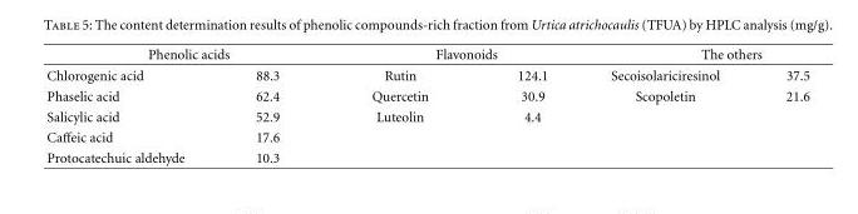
<table><thead><tr><td colspan="2">Phenolic acids</td><td colspan="2">Flavonoids</td><td colspan="2">The others</td></tr><tr><td>Chlorogenic acid</td><td>88.3</td><td>Rutin</td><td>124.1</td><td>Secoisolariciresinol</td><td>37.5</td></tr></thead><tbody><tr><td>Phaselic acid</td><td>62.4</td><td>Quercetin</td><td>30.9</td><td>Scopoletin</td><td>21.6</td></tr><tr><td>Salicylic acid</td><td>52.9</td><td>Luteolin</td><td>4.4</td><td></td><td></td></tr><tr><td>Caffeic acid</td><td>17.6</td><td></td><td></td><td></td><td></td></tr><tr><td>Protocatechuic aldehyde</td><td>10.3</td><td></td><td></td><td></td><td></td></tr></tbody></table>